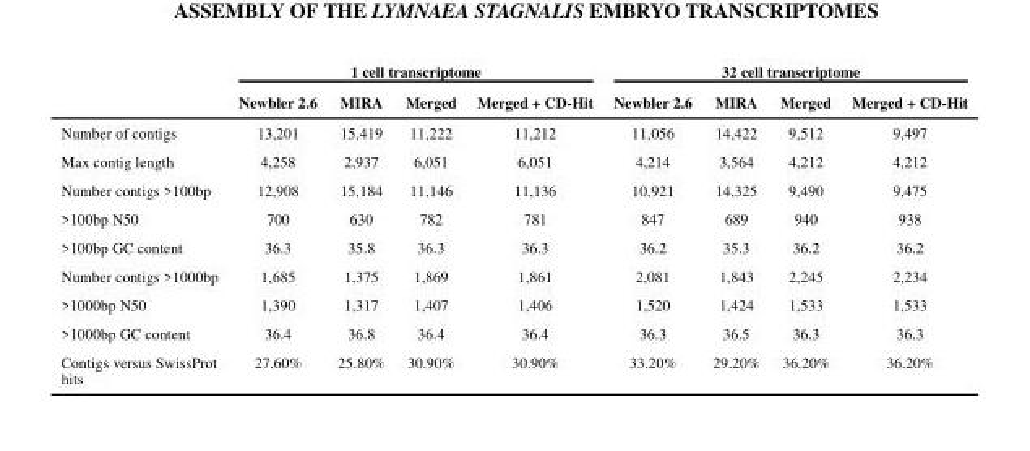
<table><thead><tr><td rowspan="2"></td><td colspan="4">1 cell transcriptome</td><td colspan="4">32 cell transcriptome</td></tr><tr><td>Newbler 2.6</td><td>MIRA</td><td>Merged</td><td>Merged + CD-Hit</td><td>Newbler 2.6</td><td>MIRA</td><td>Merged</td><td>Merged + CD-Hit</td></tr></thead><tbody><tr><td>Number of contigs</td><td>13,201</td><td>15,419</td><td>11,222</td><td>11,212</td><td>11,056</td><td>14,422</td><td>9,512</td><td>9,497</td></tr><tr><td>Max contig length</td><td>4,258</td><td>2,937</td><td>6,051</td><td>6,051</td><td>4,214</td><td>3,564</td><td>4,212</td><td>4,212</td></tr><tr><td>Number contigs &gt;100bp</td><td>12,908</td><td>15,184</td><td>11,146</td><td>11,136</td><td>10,921</td><td>14,325</td><td>9,490</td><td>9,475</td></tr><tr><td>&gt;100bp N50</td><td>700</td><td>630</td><td>782</td><td>781</td><td>847</td><td>689</td><td>940</td><td>938</td></tr><tr><td>&gt;100bp GC content</td><td>36.3</td><td>35.8</td><td>36.3</td><td>36.3</td><td>36.2</td><td>35.3</td><td>36.2</td><td>36.2</td></tr><tr><td>Number contigs &gt;1000bp</td><td>1,685</td><td>1,375</td><td>1,869</td><td>1,861</td><td>2,081</td><td>1,843</td><td>2,245</td><td>2,234</td></tr><tr><td>&gt;1000bp N50</td><td>1,390</td><td>1,317</td><td>1,407</td><td>1,406</td><td>1,520</td><td>1,424</td><td>1,533</td><td>1,533</td></tr><tr><td>&gt;1000bp GC content</td><td>36.4</td><td>36.8</td><td>36.4</td><td>36.4</td><td>36.3</td><td>36.5</td><td>36.3</td><td>36.3</td></tr><tr><td>Contigs versus SwissProt hits</td><td>27.60%</td><td>25.80%</td><td>30.90%</td><td>30.90%</td><td>33.20%</td><td>29.20%</td><td>36.20%</td><td>36.20%</td></tr></tbody></table>